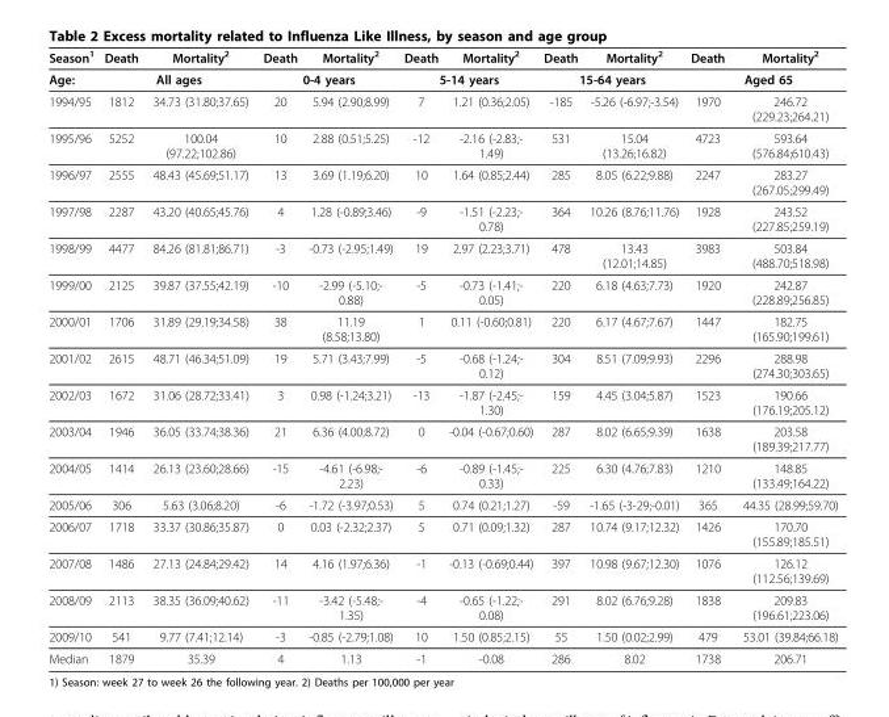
<table><thead><tr><td>Season<sup>1</sup></td><td>Death</td><td>Mortality<sup>2</sup></td><td>Death</td><td>Mortality<sup>2</sup></td><td>Death</td><td>Mortality<sup>2</sup></td><td>Death</td><td>Mortality<sup>2</sup></td><td>Death</td><td>Mortality<sup>2</sup></td></tr></thead><tbody><tr><td>Age:</td><td colspan="2">All ages</td><td colspan="2">0-4 years</td><td colspan="2">5-14 years</td><td colspan="2">15-64 years</td><td colspan="2">Aged 65</td></tr><tr><td>1994/95</td><td>1812</td><td>34.73 (31.80;37.65)</td><td>20</td><td>5.94 (2.90;8.99)</td><td>7</td><td>1.21 (0.36;2.05)</td><td>-185</td><td>-5.26 (-6.97;-3.54)</td><td>1970</td><td>246.72 (229.23;264.21)</td></tr><tr><td>1995/96</td><td>5252</td><td>100.04 (97.22;102.86)</td><td>10</td><td>2.88 (0.51;5.25)</td><td>-12</td><td>-2.16 (-2.83;- 1.49)</td><td>531</td><td>15.04 (13.26;16.82)</td><td>4723</td><td>593.64 (576.84;610.43)</td></tr><tr><td>1996/97</td><td>2555</td><td>48.43 (45.69;51.17)</td><td>13</td><td>3.69 (1.19;6.20)</td><td>10</td><td>1.64 (0.85;2.44)</td><td>285</td><td>8.05 (6.22;9.88)</td><td>2247</td><td>283.27 (267.05;299.49)</td></tr><tr><td>1997/98</td><td>2287</td><td>43.20 (40.65;45.76)</td><td>4</td><td>1.28 (-0.89;3.46)</td><td>-9</td><td>-1.51 (-2.23;- 0.78)</td><td>364</td><td>10.26 (8.76;11.76)</td><td>1928</td><td>243.52 (227.85;259.19)</td></tr><tr><td>1998/99</td><td>4477</td><td>84.26 (81.81;86.71)</td><td>-3</td><td>-0.73 (-2.95;1.49)</td><td>19</td><td>2.97 (2.23;3.71)</td><td>478</td><td>13.43 (12.01;14.85)</td><td>3983</td><td>503.84 (488.70;518.98)</td></tr><tr><td>1999/00</td><td>2125</td><td>39.87 (37.55;42.19)</td><td>-10</td><td>-2.99 (-5.10;- 0.88)</td><td>-5</td><td>-0.73 (-1.41;- 0.05)</td><td>220</td><td>6.18 (4.63;7.73)</td><td>1920</td><td>242.87 (228.89;256.85)</td></tr><tr><td>2000/01</td><td>1706</td><td>31.89 (29.19;34.58)</td><td>38</td><td>11.19 (8.58;13.80)</td><td>1</td><td>0.11 (-0.60;0.81)</td><td>220</td><td>6.17 (4.67;7.67)</td><td>1447</td><td>182.75 (165.90;199.61)</td></tr><tr><td>2001/02</td><td>2615</td><td>48.71 (46.34;51.09)</td><td>19</td><td>5.71 (3.43;7.99)</td><td>-5</td><td>-0.68 (-1.24;- 0.12)</td><td>304</td><td>8.51 (7.09;9.93)</td><td>2296</td><td>288.98 (274.30;303.65)</td></tr><tr><td>2002/03</td><td>1672</td><td>31.06 (28.72;33.41)</td><td>3</td><td>0.98 (-1.24;3.21)</td><td>-13</td><td>-1.87 (-2.45;- 1.30)</td><td>159</td><td>4.45 (3.04;5.87)</td><td>1523</td><td>190.66 (176.19;205.12)</td></tr><tr><td>2003/04</td><td>1946</td><td>36.05 (33.74;38.36)</td><td>21</td><td>6.36 (4.00;8.72)</td><td>0</td><td>-0.04 (-0.67;0.60)</td><td>287</td><td>8.02 (6.65;9.39)</td><td>1638</td><td>203.58 (189.39;217.77)</td></tr><tr><td>2004/05</td><td>1414</td><td>26.13 (23.60;28.66)</td><td>-15</td><td>-4.61 (-6.98;- 2.23)</td><td>-6</td><td>-0.89 (-1.45;- 0.33)</td><td>225</td><td>6.30 (4.76;7.83)</td><td>1210</td><td>148.85 (133.49;164.22)</td></tr><tr><td>2005/06</td><td>306</td><td>5.63 (3.06;8.20)</td><td>-6</td><td>-1.72 (-3.97;0.53)</td><td>5</td><td>0.74 (0.21;1.27)</td><td>-59</td><td>-1.65 (-3-29;-0.01)</td><td>365</td><td>44.35 (28.99;59.70)</td></tr><tr><td>2006/07</td><td>1718</td><td>33.37 (30.86;35.87)</td><td>0</td><td>0.03 (-2.32;2.37)</td><td>5</td><td>0.71 (0.09;1.32)</td><td>287</td><td>10.74 (9.17;12.32)</td><td>1426</td><td>170.70 (155.89;185.51)</td></tr><tr><td>2007/08</td><td>1486</td><td>27.13 (24.84;29.42)</td><td>14</td><td>4.16 (1.97;6.36)</td><td>-1</td><td>-0.13 (-0.69;0.44)</td><td>397</td><td>10.98 (9.67;12.30)</td><td>1076</td><td>126.12 (112.56;139.69)</td></tr><tr><td>2008/09</td><td>2113</td><td>38.35 (36.09;40.62)</td><td>-11</td><td>-3.42 (-5.48;- 1.35)</td><td>-4</td><td>-0.65 (-1.22;- 0.08)</td><td>291</td><td>8.02 (6.76;9.28)</td><td>1838</td><td>209.83 (196.61;223.06)</td></tr><tr><td>2009/10</td><td>541</td><td>9.77 (7.41;12.14)</td><td>-3</td><td>-0.85 (-2.79;1.08)</td><td>10</td><td>1.50 (0.85;2.15)</td><td>55</td><td>1.50 (0.02;2.99)</td><td>479</td><td>53.01 (39.84;66.18)</td></tr><tr><td>Median</td><td>1879</td><td>35.39</td><td>4</td><td>1.13</td><td>-1</td><td>-0.08</td><td>286</td><td>8.02</td><td>1738</td><td>206.71</td></tr></tbody></table>